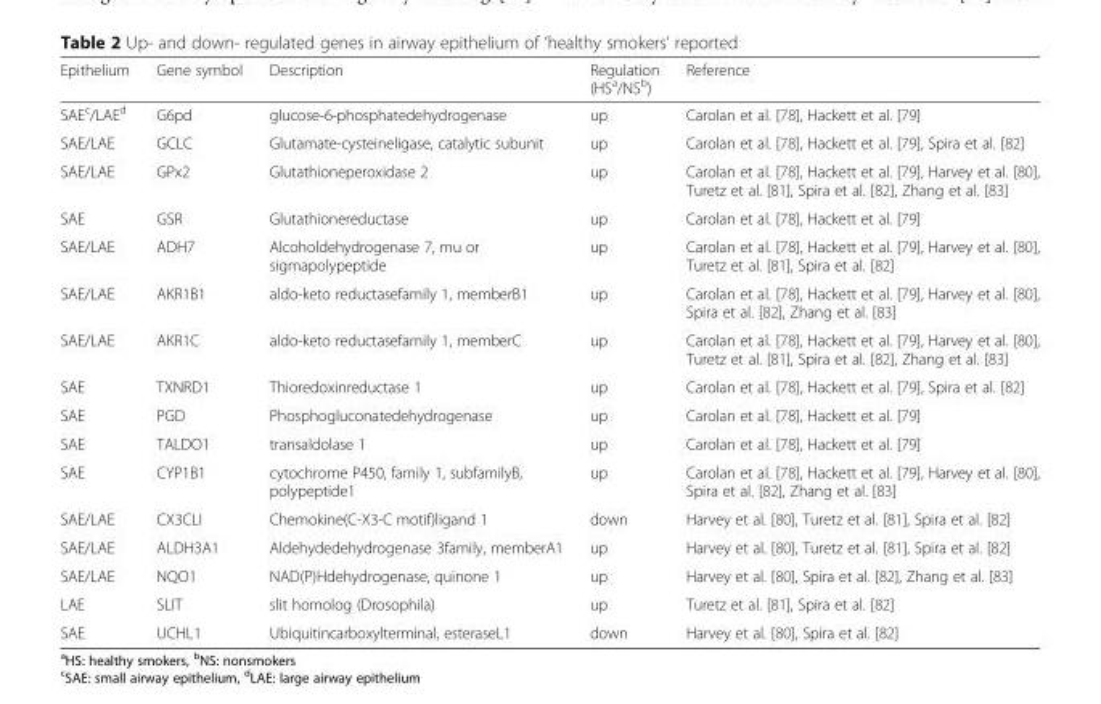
<table><thead><tr><td>Epithelium</td><td>Gene symbol</td><td>Description</td><td>Regulation (HS<sup>a</sup>/NS<sup>b</sup>)</td><td>Reference</td></tr></thead><tbody><tr><td>SAE<sup>c</sup>/LAE<sup>d</sup></td><td>G6pd</td><td>glucose-6-phosphatedehydrogenase</td><td>up</td><td>Carolan et al. [78], Hackett et al. [79]</td></tr><tr><td>SAE/LAE</td><td>GCLC</td><td>Glutamate-cysteineligase, catalytic subunit</td><td>up</td><td>Carolan et al. [78], Hackett et al. [79], Spira et al. [82]</td></tr><tr><td>SAE/LAE</td><td>GPx2</td><td>Glutathioneperoxidase 2</td><td>up</td><td>Carolan et al. [78], Hackett et al. [79], Harvey et al. [80], Turetz et al. [81], Spira et al. [82], Zhang et al. [83]</td></tr><tr><td>SAE</td><td>GSR</td><td>Glutathionereductase</td><td>up</td><td>Carolan et al. [78], Hackett et al. [79]</td></tr><tr><td>SAE/LAE</td><td>ADH7</td><td>Alcoholdehydrogenase 7, mu or sigmapolypeptide</td><td>up</td><td>Carolan et al. [78], Hackett et al. [79], Harvey et al. [80], Turetz et al. [81], Spira et al. [82]</td></tr><tr><td>SAE/LAE</td><td>AKR1B1</td><td>aldo-keto reductasefamily 1, memberB1</td><td>up</td><td>Carolan et al. [78], Hackett et al. [79], Harvey et al. [80], Spira et al. [82], Zhang et al. [83]</td></tr><tr><td>SAE/LAE</td><td>AKR1C</td><td>aldo-keto reductasefamily 1, memberC</td><td>up</td><td>Carolan et al. [78], Hackett et al. [79], Harvey et al. [80], Turetz et al. [81], Spira et al. [82], Zhang et al. [83]</td></tr><tr><td>SAE</td><td>TXNRD1</td><td>Thioredoxinreductase 1</td><td>up</td><td>Carolan et al. [78], Hackett et al. [79], Spira et al. [82]</td></tr><tr><td>SAE</td><td>PGD</td><td>Phosphogluconatedehydrogenase</td><td>up</td><td>Carolan et al. [78], Hackett et al. [79]</td></tr><tr><td>SAE</td><td>TALDO1</td><td>transaldolase 1</td><td>up</td><td>Carolan et al. [78], Hackett et al. [79]</td></tr><tr><td>SAE</td><td>CYP1B1</td><td>cytochrome P450, family 1, subfamilyB, polypeptide1</td><td>up</td><td>Carolan et al. [78], Hackett et al. [79], Harvey et al. [80], Spira et al. [82], Zhang et al. [83]</td></tr><tr><td>SAE/LAE</td><td>CX3CLI</td><td>Chemokine(C-X3-C motif)ligand 1</td><td>down</td><td>Harvey et al. [80], Turetz et al. [81], Spira et al. [82]</td></tr><tr><td>SAE/LAE</td><td>ALDH3A1</td><td>Aldehydedehydrogenase 3family, memberA1</td><td>up</td><td>Harvey et al. [80], Turetz et al. [81], Spira et al. [82]</td></tr><tr><td>SAE/LAE</td><td>NQO1</td><td>NAD(P)Hdehydrogenase, quinone 1</td><td>up</td><td>Harvey et al. [80], Spira et al. [82], Zhang et al. [83]</td></tr><tr><td>LAE</td><td>SLIT</td><td>slit homolog (Drosophila)</td><td>up</td><td>Turetz et al. [81], Spira et al. [82]</td></tr><tr><td>SAE</td><td>UCHL1</td><td>Ubiquitincarboxylterminal, esteraseL1</td><td>down</td><td>Harvey et al. [80], Spira et al. [82]</td></tr></tbody></table>